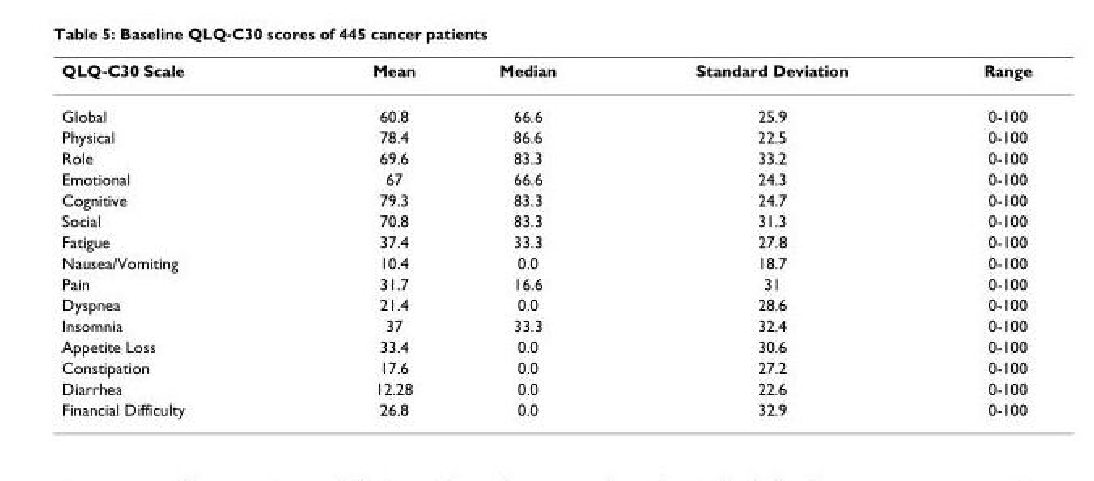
<table><thead><tr><td>QLQ-C30 Scale</td><td>Mean</td><td>Median</td><td>Standard Deviation</td><td>Range</td></tr></thead><tbody><tr><td>Global</td><td>60.8</td><td>66.6</td><td>25.9</td><td>0-100</td></tr><tr><td>Physical</td><td>78.4</td><td>86.6</td><td>22.5</td><td>0-100</td></tr><tr><td>Role</td><td>69.6</td><td>83.3</td><td>33.2</td><td>0-100</td></tr><tr><td>Emotional</td><td>67</td><td>66.6</td><td>24.3</td><td>0-100</td></tr><tr><td>Cognitive</td><td>79.3</td><td>83.3</td><td>24.7</td><td>0-100</td></tr><tr><td>Social</td><td>70.8</td><td>83.3</td><td>31.3</td><td>0-100</td></tr><tr><td>Fatigue</td><td>37.4</td><td>33.3</td><td>27.8</td><td>0-100</td></tr><tr><td>Nausea/Vomiting</td><td>10.4</td><td>0.0</td><td>18.7</td><td>0-100</td></tr><tr><td>Pain</td><td>31.7</td><td>16.6</td><td>31</td><td>0-100</td></tr><tr><td>Dyspnea</td><td>21.4</td><td>0.0</td><td>28.6</td><td>0-100</td></tr><tr><td>Insomnia</td><td>37</td><td>33.3</td><td>32.4</td><td>0-100</td></tr><tr><td>Appetite Loss</td><td>33.4</td><td>0.0</td><td>30.6</td><td>0-100</td></tr><tr><td>Constipation</td><td>17.6</td><td>0.0</td><td>27.2</td><td>0-100</td></tr><tr><td>Diarrhea</td><td>12.28</td><td>0.0</td><td>22.6</td><td>0-100</td></tr><tr><td>Financial Difficulty</td><td>26.8</td><td>0.0</td><td>32.9</td><td>0-100</td></tr></tbody></table>